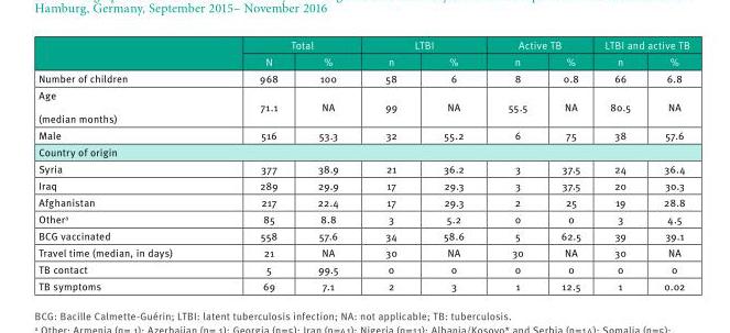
<table><thead><tr><td rowspan="2"></td><td colspan="2">Total</td><td colspan="2">LTBI</td><td colspan="2">Active TB</td><td colspan="2">LTBI and active TB</td></tr><tr><td>N</td><td>%</td><td>n</td><td>%</td><td>n</td><td>%</td><td>n</td><td>%</td></tr></thead><tbody><tr><td>Number of children</td><td>968</td><td>100</td><td>58</td><td>6</td><td>8</td><td>0.8</td><td>66</td><td>6.8</td></tr><tr><td>Age (median months)</td><td>71.1</td><td>NA</td><td>99</td><td>NA</td><td>55.5</td><td>NA</td><td>80.5</td><td>NA</td></tr><tr><td>Male</td><td>516</td><td>53.3</td><td>32</td><td>55.2</td><td>6</td><td>75</td><td>38</td><td>57.6</td></tr><tr><td colspan="9">Country of origin</td></tr><tr><td>Syria</td><td>377</td><td>38.9</td><td>21</td><td>36.2</td><td>3</td><td>37.5</td><td>24</td><td>36.4</td></tr><tr><td>Iraq</td><td>289</td><td>29.9</td><td>17</td><td>29.3</td><td>3</td><td>37.5</td><td>20</td><td>30.3</td></tr><tr><td>Afghanistan</td><td>217</td><td>22.4</td><td>17</td><td>29.3</td><td>2</td><td>25</td><td>19</td><td>28.8</td></tr><tr><td>Other<sup>a</sup></td><td>85</td><td>8.8</td><td>3</td><td>5.2</td><td>0</td><td>0</td><td>3</td><td>4.5</td></tr><tr><td>BCG vaccinated</td><td>558</td><td>57.6</td><td>34</td><td>58.6</td><td>5</td><td>62.5</td><td>39</td><td>39.1</td></tr><tr><td>Travel time (median, in days)</td><td>21</td><td>NA</td><td>30</td><td>NA</td><td>30</td><td>NA</td><td>30</td><td>NA</td></tr><tr><td>TB contact</td><td>5</td><td>99.5</td><td>0</td><td>0</td><td>0</td><td>0</td><td>0</td><td>0</td></tr><tr><td>TB symptoms</td><td>69</td><td>7.1</td><td>2</td><td>3</td><td>1</td><td>12.5</td><td>1</td><td>0.02</td></tr></tbody></table>